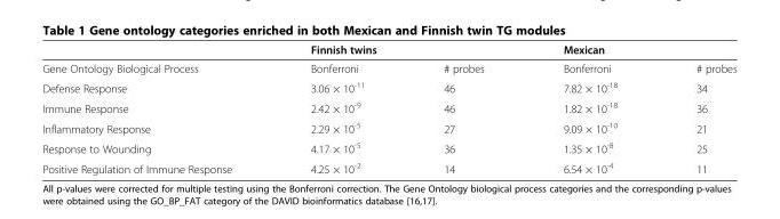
<table><thead><tr><td rowspan="2">Gene Ontology Biological Process</td><td colspan="2">Finnish twins</td><td colspan="2">Mexican</td></tr><tr><td>Bonferroni</td><td># probes</td><td>Bonferroni</td><td># probes</td></tr></thead><tbody><tr><td>Defense Response</td><td>3.06 × 10<sup>-11</sup></td><td>46</td><td>7.82 × 10<sup>-18</sup></td><td>34</td></tr><tr><td>Immune Response</td><td>2.42 × 10<sup>-9</sup></td><td>46</td><td>1.82 × 10<sup>-18</sup></td><td>36</td></tr><tr><td>Inflammatory Response</td><td>2.29 × 10<sup>-5</sup></td><td>27</td><td>9.09 × 10<sup>-10</sup></td><td>21</td></tr><tr><td>Response to Wounding</td><td>4.17 × 10<sup>-5</sup></td><td>36</td><td>1.35 × 10<sup>-8</sup></td><td>25</td></tr><tr><td>Positive Regulation of Immune Response</td><td>4.25 × 10<sup>-2</sup></td><td>14</td><td>6.54 × 10<sup>-4</sup></td><td>11</td></tr></tbody></table>